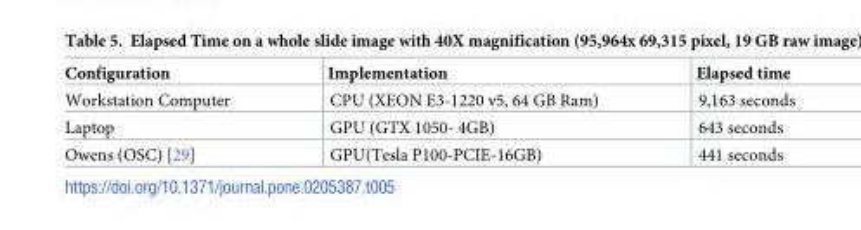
<table><thead><tr><td>Configuration</td><td>Implementation</td><td>Elapsed time</td></tr></thead><tbody><tr><td>Workstation Computer</td><td>CPU (XEON E3-1220 v5, 64 GB Ram)</td><td>9,163 seconds</td></tr><tr><td>Laptop</td><td>GPU (GTX 1050- 4GB)</td><td>643 seconds</td></tr><tr><td>Owens (OSC) [29]</td><td>GPU(Tesla P100-PCIE-16GB)</td><td>441 seconds</td></tr></tbody></table>